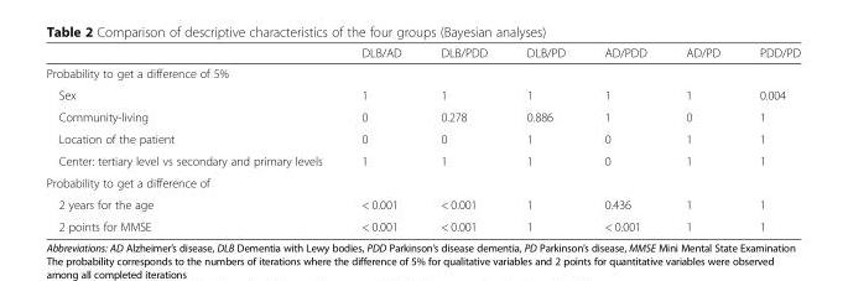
<table><thead><tr><td></td><td>DLB/AD</td><td>DLB/PDD</td><td>DLB/PD</td><td>AD/PDD</td><td>AD/PD</td><td>PDD/PD</td></tr></thead><tbody><tr><td colspan="7">Probability to get a difference of 5%</td></tr><tr><td>Sex</td><td>1</td><td>1</td><td>1</td><td>1</td><td>1</td><td>0.004</td></tr><tr><td>Community-living</td><td>0</td><td>0.278</td><td>0.886</td><td>1</td><td>0</td><td>1</td></tr><tr><td>Location of the patient</td><td>0</td><td>0</td><td>1</td><td>0</td><td>1</td><td>1</td></tr><tr><td>Center: tertiary level vs secondary and primary levels</td><td>1</td><td>1</td><td>1</td><td>0</td><td>1</td><td>1</td></tr><tr><td colspan="7">Probability to get a difference of</td></tr><tr><td>2 years for the age</td><td>&lt; 0.001</td><td>&lt; 0.001</td><td>1</td><td>0.436</td><td>1</td><td>1</td></tr><tr><td>2 points for MMSE</td><td>&lt; 0.001</td><td>&lt; 0.001</td><td>1</td><td>&lt; 0.001</td><td>1</td><td>1</td></tr></tbody></table>